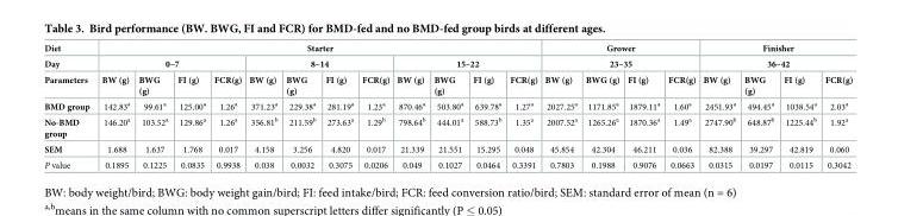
<table><thead><tr><td rowspan="3">Diet Day Parameters</td><td colspan="12">Starter</td><td rowspan="2" colspan="4">Grower 23–35</td><td rowspan="2" colspan="4">Finisher 36–42</td></tr><tr><td colspan="4">0–7</td><td colspan="4">8–14</td><td colspan="4">15–22</td></tr><tr><td>BW (g)</td><td>BWG (g)</td><td>FI (g)</td><td>FCR(g)</td><td>BW (g)</td><td>BWG (g)</td><td>FI (g)</td><td>FCR(g)</td><td>BW (g)</td><td>BWG (g)</td><td>FI (g)</td><td>FCR(g)</td><td>BW (g)</td><td>BWG (g)</td><td>FI (g)</td><td>FCR(g)</td><td>BW (g)</td><td>BWG (g)</td><td>FI (g)</td><td>FCR(g)</td></tr></thead><tbody><tr><td>BMD group</td><td>142.83<sup>a</sup></td><td>99.61<sup>a</sup></td><td>125.00<sup>a</sup></td><td>1.26<sup>a</sup></td><td>371.23<sup>a</sup></td><td>229.38<sup>a</sup></td><td>281.19<sup>a</sup></td><td>1.23<sup>a</sup></td><td>870.46<sup>a</sup></td><td>503.80<sup>a</sup></td><td>639.78<sup>a</sup></td><td>1.27<sup>a</sup></td><td>2027.25<sup>a</sup></td><td>1171.85<sup>a</sup></td><td>1879.11<sup>a</sup></td><td>1.60<sup>a</sup></td><td>2451.93<sup>a</sup></td><td>494.45<sup>a</sup></td><td>1038.54<sup>a</sup></td><td>2.03<sup>a</sup></td></tr><tr><td>No-BMD group</td><td>146.20<sup>a</sup></td><td>103.52<sup>a</sup></td><td>129.86<sup>a</sup></td><td>1.26<sup>a</sup></td><td>356.81<sup>b</sup></td><td>211.59<sup>b</sup></td><td>273.63<sup>a</sup></td><td>1.29<sup>b</sup></td><td>798.64<sup>b</sup></td><td>444.01<sup>a</sup></td><td>588.73<sup>b</sup></td><td>1.35<sup>a</sup></td><td>2007.52<sup>a</sup></td><td>1265.26<sup>a</sup></td><td>1870.36<sup>a</sup></td><td>1.49<sup>a</sup></td><td>2747.90<sup>b</sup></td><td>648.87<sup>b</sup></td><td>1225.44<sup>b</sup></td><td>1.92<sup>a</sup></td></tr><tr><td>SEM</td><td>1.688</td><td>1.637</td><td>1.768</td><td>0.017</td><td>4.158</td><td>3.256</td><td>4.820</td><td>0.017</td><td>21.339</td><td>21.551</td><td>15.295</td><td>0.048</td><td>45.854</td><td>42.304</td><td>46.211</td><td>0.036</td><td>82.388</td><td>39.297</td><td>42.819</td><td>0.060</td></tr><tr><td>P value</td><td>0.1895</td><td>0.1225</td><td>0.0835</td><td>0.9938</td><td>0.038</td><td>0.0032</td><td>0.3075</td><td>0.0206</td><td>0.049</td><td>0.1027</td><td>0.0464</td><td>0.3391</td><td>0.7803</td><td>0.1988</td><td>0.9076</td><td>0.0663</td><td>0.0315</td><td>0.0197</td><td>0.0115</td><td>0.3042</td></tr></tbody></table>